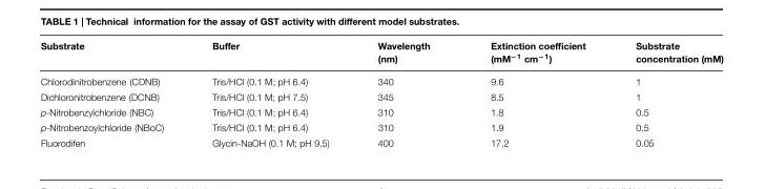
<table><thead><tr><td>Substrate</td><td>Buffer</td><td>Wavelength (nm)</td><td>Extinction coefficient (mM<sup>−1</sup> cm<sup>−1</sup>)</td><td>Substrate concentration (mM)</td></tr></thead><tbody><tr><td>Chlorodinitrobenzene (CDNB)</td><td>Tris/HCl (0.1 M; pH 6.4)</td><td>340</td><td>9.6</td><td>1</td></tr><tr><td>Dichloronitrobenzene (DCNB)</td><td>Tris/HCl (0.1 M; pH 7.5)</td><td>345</td><td>8.5</td><td>1</td></tr><tr><td>p-Nitrobenzylchloride (NBC)</td><td>Tris/HCl (0.1 M; pH 6.4)</td><td>310</td><td>1.8</td><td>0.5</td></tr><tr><td>p-Nitrobenzoylchloride (NBoC)</td><td>Tris/HCl (0.1 M; pH 6.4)</td><td>310</td><td>1.9</td><td>0.5</td></tr><tr><td>Fluorodifen</td><td>Glycin-NaOH (0.1 M; pH 9.5)</td><td>400</td><td>17.2</td><td>0.05</td></tr></tbody></table>